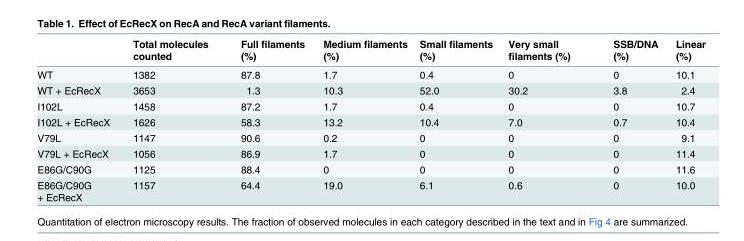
<table><thead><tr><td></td><td>Total molecules counted</td><td>Full filaments (%)</td><td>Medium filaments (%)</td><td>Small filaments (%)</td><td>Very small filaments (%)</td><td>SSB/DNA (%)</td><td>Linear (%)</td></tr></thead><tbody><tr><td>WT</td><td>1382</td><td>87.8</td><td>1.7</td><td>0.4</td><td>0</td><td>0</td><td>10.1</td></tr><tr><td>WT + EcRecX</td><td>3653</td><td>1.3</td><td>10.3</td><td>52.0</td><td>30.2</td><td>3.8</td><td>2.4</td></tr><tr><td>I102L</td><td>1458</td><td>87.2</td><td>1.7</td><td>0.4</td><td>0</td><td>0</td><td>10.7</td></tr><tr><td>I102L + EcRecX</td><td>1626</td><td>58.3</td><td>13.2</td><td>10.4</td><td>7.0</td><td>0.7</td><td>10.4</td></tr><tr><td>V79L</td><td>1147</td><td>90.6</td><td>0.2</td><td>0</td><td>0</td><td>0</td><td>9.1</td></tr><tr><td>V79L + EcRecX</td><td>1056</td><td>86.9</td><td>1.7</td><td>0</td><td>0</td><td>0</td><td>11.4</td></tr><tr><td>E86G/C90G</td><td>1125</td><td>88.4</td><td>0</td><td>0</td><td>0</td><td>0</td><td>11.6</td></tr><tr><td>E86G/C90G + EcRecX</td><td>1157</td><td>64.4</td><td>19.0</td><td>6.1</td><td>0.6</td><td>0</td><td>10.0</td></tr></tbody></table>